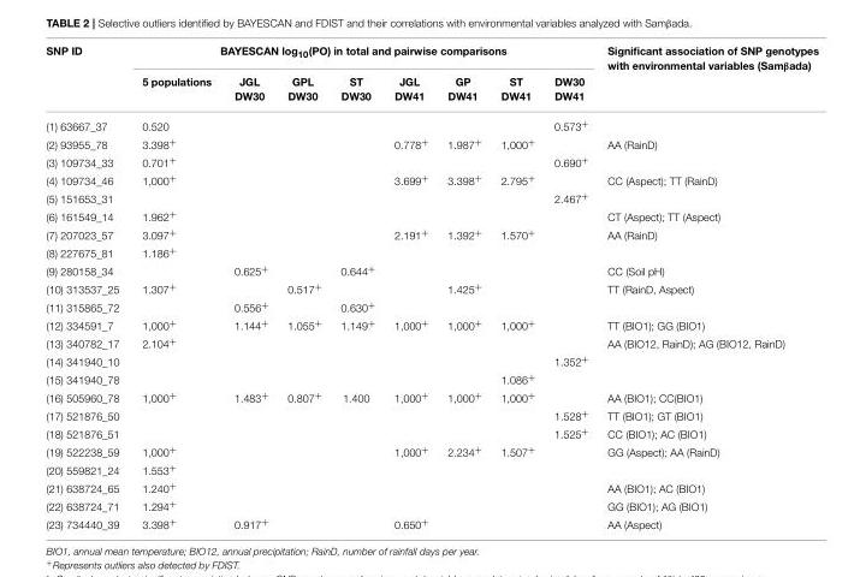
<table><thead><tr><td rowspan="2">SNP ID</td><td colspan="8">BAYESCAN log<sub>10</sub>(PO) in total and pairwise comparisons</td><td rowspan="2">Significant association of SNP genotypes with environmental variables (Samβada)</td></tr><tr><td>5 populations</td><td>JGL DW30</td><td>GPL DW30</td><td>ST DW30</td><td>JGL DW41</td><td>GP DW41</td><td>ST DW41</td><td>DW30 DW41</td></tr></thead><tbody><tr><td>(1) 63667_37</td><td>0.520</td><td></td><td></td><td></td><td></td><td></td><td></td><td>0.573<sup>+</sup></td><td></td></tr><tr><td>(2) 93955_78</td><td>3.398<sup>+</sup></td><td></td><td></td><td></td><td>0.778<sup>+</sup></td><td>1.987<sup>+</sup></td><td>1,000<sup>+</sup></td><td></td><td>AA (RainD)</td></tr><tr><td>(3) 109734_33</td><td>0.701<sup>+</sup></td><td></td><td></td><td></td><td></td><td></td><td></td><td>0.690<sup>+</sup></td><td></td></tr><tr><td>(4) 109734_46</td><td>1,000<sup>+</sup></td><td></td><td></td><td></td><td>3.699<sup>+</sup></td><td>3.398<sup>+</sup></td><td>2.795<sup>+</sup></td><td></td><td>CC (Aspect); TT (RainD)</td></tr><tr><td>(5) 151653_31</td><td></td><td></td><td></td><td></td><td></td><td></td><td></td><td>2.467<sup>+</sup></td><td></td></tr><tr><td>(6) 161549_14</td><td>1.962<sup>+</sup></td><td></td><td></td><td></td><td></td><td></td><td></td><td></td><td>CT (Aspect); TT (Aspect)</td></tr><tr><td>(7) 207023_57</td><td>3.097<sup>+</sup></td><td></td><td></td><td></td><td>2.191<sup>+</sup></td><td>1.392<sup>+</sup></td><td>1.570<sup>+</sup></td><td></td><td>AA (RainD)</td></tr><tr><td>(8) 227675_81</td><td>1.186<sup>+</sup></td><td></td><td></td><td></td><td></td><td></td><td></td><td></td><td></td></tr><tr><td>(9) 280158_34</td><td></td><td>0.625<sup>+</sup></td><td></td><td>0.644<sup>+</sup></td><td></td><td></td><td></td><td></td><td>CC (Soil pH)</td></tr><tr><td>(10) 313537_25</td><td>1.307<sup>+</sup></td><td></td><td>0.517<sup>+</sup></td><td></td><td></td><td>1.425<sup>+</sup></td><td></td><td></td><td>TT (RainD, Aspect)</td></tr><tr><td>(11) 315865_72</td><td></td><td>0.556<sup>+</sup></td><td></td><td>0.630<sup>+</sup></td><td></td><td></td><td></td><td></td><td></td></tr><tr><td>(12) 334591_7</td><td>1,000<sup>+</sup></td><td>1.144<sup>+</sup></td><td>1.055<sup>+</sup></td><td>1.149<sup>+</sup></td><td>1,000<sup>+</sup></td><td>1,000<sup>+</sup></td><td>1,000<sup>+</sup></td><td></td><td>TT (BIO1); GG (BIO1)</td></tr><tr><td>(13) 340782_17</td><td>2.104<sup>+</sup></td><td></td><td></td><td></td><td></td><td></td><td></td><td></td><td>AA (BIO12, RainD); AG (BIO12, RainD)</td></tr><tr><td>(14) 341940_10</td><td></td><td></td><td></td><td></td><td></td><td></td><td></td><td>1.352<sup>+</sup></td><td></td></tr><tr><td>(15) 341940_78</td><td></td><td></td><td></td><td></td><td></td><td></td><td>1.086<sup>+</sup></td><td></td><td></td></tr><tr><td>(16) 505960_78</td><td>1,000<sup>+</sup></td><td>1.483<sup>+</sup></td><td>0.807<sup>+</sup></td><td>1.400</td><td>1,000<sup>+</sup></td><td>1,000<sup>+</sup></td><td>1,000<sup>+</sup></td><td></td><td>AA (BIO1); CC(BIO1)</td></tr><tr><td>(17) 521876_50</td><td></td><td></td><td></td><td></td><td></td><td></td><td></td><td>1.528<sup>+</sup></td><td>TT (BIO1); GT (BIO1)</td></tr><tr><td>(18) 521876_51</td><td></td><td></td><td></td><td></td><td></td><td></td><td></td><td>1.525<sup>+</sup></td><td>CC (BIO1); AC (BIO1)</td></tr><tr><td>(19) 522238_59</td><td>1,000<sup>+</sup></td><td></td><td></td><td></td><td>1,000<sup>+</sup></td><td>2.234<sup>+</sup></td><td>1.507<sup>+</sup></td><td></td><td>GG (Aspect); AA (RainD)</td></tr><tr><td>(20) 559821_24</td><td>1.553<sup>+</sup></td><td></td><td></td><td></td><td></td><td></td><td></td><td></td><td></td></tr><tr><td>(21) 638724_65</td><td>1.240<sup>+</sup></td><td></td><td></td><td></td><td></td><td></td><td></td><td></td><td>AA (BIO1); AC (BIO1)</td></tr><tr><td>(22) 638724_71</td><td>1.294<sup>+</sup></td><td></td><td></td><td></td><td></td><td></td><td></td><td></td><td>GG (BIO1); AG (BIO1)</td></tr><tr><td>(23) 734440_39</td><td>3.398<sup>+</sup></td><td>0.917<sup>+</sup></td><td></td><td></td><td>0.650<sup>+</sup></td><td></td><td></td><td></td><td>AA (Aspect)</td></tr></tbody></table>